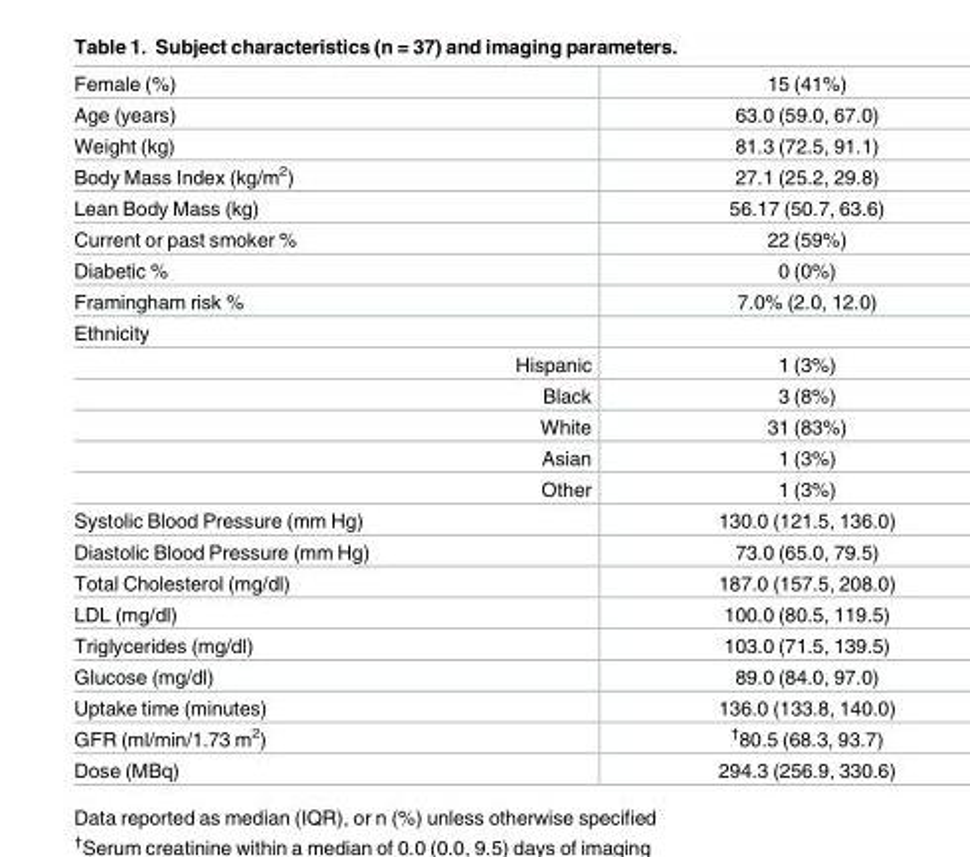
<table><tbody><tr><td>Female (%)</td><td>15 (41%)</td></tr><tr><td>Age (years)</td><td>63.0 (59.0, 67.0)</td></tr><tr><td>Weight (kg)</td><td>81.3 (72.5, 91.1)</td></tr><tr><td>Body Mass Index (kg/m<sup>2</sup>)</td><td>27.1 (25.2, 29.8)</td></tr><tr><td>Lean Body Mass (kg)</td><td>56.17 (50.7, 63.6)</td></tr><tr><td>Current or past smoker %</td><td>22 (59%)</td></tr><tr><td>Diabetic %</td><td>0 (0%)</td></tr><tr><td>Framingham risk %</td><td>7.0% (2.0, 12.0)</td></tr><tr><td colspan="2">Ethnicity</td></tr><tr><td>Hispanic</td><td>1 (3%)</td></tr><tr><td>Black</td><td>3 (8%)</td></tr><tr><td>White</td><td>31 (83%)</td></tr><tr><td>Asian</td><td>1 (3%)</td></tr><tr><td>Other</td><td>1 (3%)</td></tr><tr><td>Systolic Blood Pressure (mm Hg)</td><td>130.0 (121.5, 136.0)</td></tr><tr><td>Diastolic Blood Pressure (mm Hg)</td><td>73.0 (65.0, 79.5)</td></tr><tr><td>Total Cholesterol (mg/dl)</td><td>187.0 (157.5, 208.0)</td></tr><tr><td>LDL (mg/dl)</td><td>100.0 (80.5, 119.5)</td></tr><tr><td>Triglycerides (mg/dl)</td><td>103.0 (71.5, 139.5)</td></tr><tr><td>Glucose (mg/dl)</td><td>89.0 (84.0, 97.0)</td></tr><tr><td>Uptake time (minutes)</td><td>136.0 (133.8, 140.0)</td></tr><tr><td>GFR (ml/min/1.73 m<sup>2</sup>)</td><td><sup>†</sup>80.5 (68.3, 93.7)</td></tr><tr><td>Dose (MBq)</td><td>294.3 (256.9, 330.6)</td></tr></tbody></table>